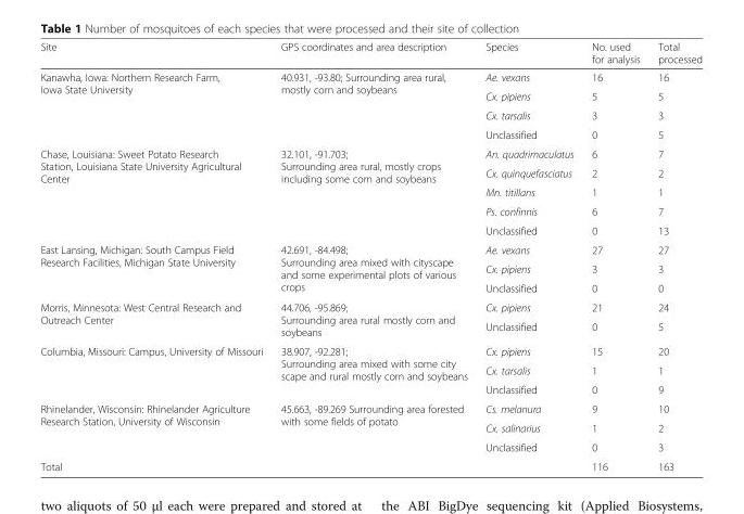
<table><thead><tr><td>Site</td><td>GPS coordinates and area description</td><td>Species</td><td>No. used for analysis</td><td>Total processed</td></tr></thead><tbody><tr><td rowspan="4">Kanawha, Iowa: Northern Research Farm, Iowa State University</td><td rowspan="4">40.931, -93.80; Surrounding area rural, mostly corn and soybeans</td><td>Ae. vexans</td><td>16</td><td>16</td></tr><tr><td>Cx. pipiens</td><td>5</td><td>5</td></tr><tr><td>Cx. tarsalis</td><td>3</td><td>3</td></tr><tr><td>Unclassified</td><td>0</td><td>5</td></tr><tr><td rowspan="5">Chase, Louisiana: Sweet Potato Research Station, Louisiana State University Agricultural Center</td><td rowspan="5">32.101, -91.703; Surrounding area rural, mostly crops including some corn and soybeans</td><td>An. quadrimaculatus</td><td>6</td><td>7</td></tr><tr><td>Cx. quinquefasciatus</td><td>2</td><td>2</td></tr><tr><td>Mn. titillans</td><td>1</td><td>1</td></tr><tr><td>Ps. confinnis</td><td>6</td><td>7</td></tr><tr><td>Unclassified</td><td>0</td><td>13</td></tr><tr><td rowspan="3">East Lansing, Michigan: South Campus Field Research Facilities, Michigan State University</td><td rowspan="3">42.691, -84.498; Surrounding area mixed with cityscape and some experimental plots of various crops</td><td>Ae. vexans</td><td>27</td><td>27</td></tr><tr><td>Cx. pipiens</td><td>3</td><td>3</td></tr><tr><td>Unclassified</td><td>0</td><td>0</td></tr><tr><td rowspan="2">Morris, Minnesota: West Central Research and Outreach Center</td><td rowspan="2">44.706, -95.869; Surrounding area rural mostly corn and soybeans</td><td>Cx. pipiens</td><td>21</td><td>24</td></tr><tr><td>Unclassified</td><td>0</td><td>5</td></tr><tr><td rowspan="3">Columbia, Missouri: Campus, University of Missouri</td><td rowspan="3">38.907, -92.281; Surrounding area mixed with some city scape and rural mostly corn and soybeans</td><td>Cx. pipiens</td><td>15</td><td>20</td></tr><tr><td>Cx. tarsalis</td><td>1</td><td>1</td></tr><tr><td>Unclassified</td><td>0</td><td>9</td></tr><tr><td rowspan="3">Rhinelander, Wisconsin: Rhinelander Agriculture Research Station, University of Wisconsin</td><td rowspan="3">45.663, -89.269 Surrounding area forested with some fields of potato</td><td>Cs. melanura</td><td>9</td><td>10</td></tr><tr><td>Cx. salinarius</td><td>1</td><td>2</td></tr><tr><td>Unclassified</td><td>0</td><td>3</td></tr><tr><td>Total</td><td></td><td></td><td>116</td><td>163</td></tr></tbody></table>